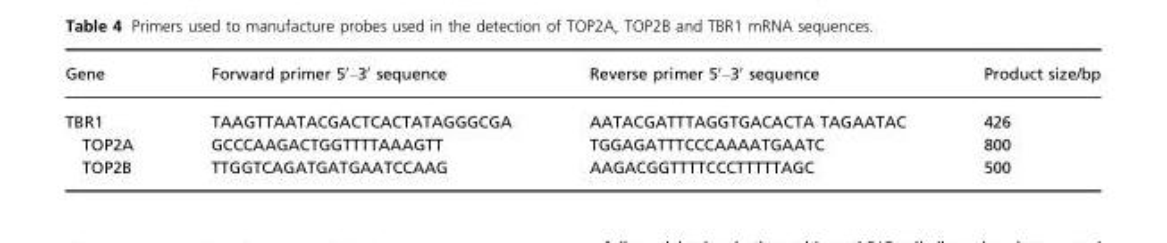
<table><thead><tr><td>Gene</td><td>Forward primer 5′–3′ sequence</td><td>Reverse primer 5′–3′ sequence</td><td>Product size/bp</td></tr></thead><tbody><tr><td>TBR1</td><td>TAAGTTAATACGACTCACTATAGGGCGA</td><td>AATACGATTTAGGTGACACTA TAGAATAC</td><td>426</td></tr><tr><td>TOP2A</td><td>GCCCAAGACTGGTTTTAAAGTT</td><td>TGGAGATTTCCCAAAATGAATC</td><td>800</td></tr><tr><td>TOP2B</td><td>TTGGTCAGATGATGAATCCAAG</td><td>AAGACGGTTTTCCCTTTTTAGC</td><td>500</td></tr></tbody></table>